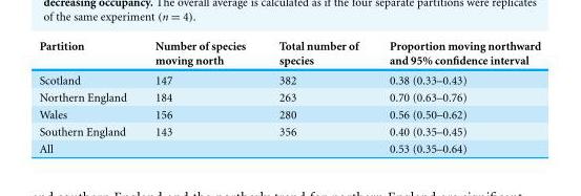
<table><thead><tr><td>Partition</td><td>Number of species moving north</td><td>Total number of species</td><td>Proportion moving northward and 95% confidence interval</td></tr></thead><tbody><tr><td>Scotland</td><td>147</td><td>382</td><td>0.38 (0.33–0.43)</td></tr><tr><td>Northern England</td><td>184</td><td>263</td><td>0.70 (0.63–0.76)</td></tr><tr><td>Wales</td><td>156</td><td>280</td><td>0.56 (0.50–0.62)</td></tr><tr><td>Southern England</td><td>143</td><td>356</td><td>0.40 (0.35–0.45)</td></tr><tr><td>All</td><td></td><td></td><td>0.53 (0.35–0.64)</td></tr></tbody></table>